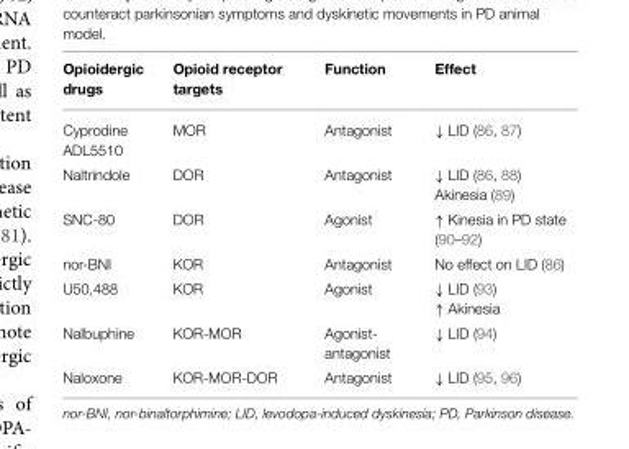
<table><thead><tr><td>Opioidergic drugs</td><td>Opioid receptor targets</td><td>Function</td><td>Effect</td></tr></thead><tbody><tr><td>Cyprodine ADL5510</td><td>MOR</td><td>Antagonist</td><td>↓ LID (86, 87)</td></tr><tr><td>Naltrindole</td><td>DOR</td><td>Antagonist</td><td>↓ LID (86, 88) Akinesia (89)</td></tr><tr><td>SNC-80</td><td>DOR</td><td>Agonist</td><td>↑ Kinesia in PD state (90–92)</td></tr><tr><td>nor-BNI</td><td>KOR</td><td>Antagonist</td><td>No effect on LID (86)</td></tr><tr><td>U50,488</td><td>KOR</td><td>Agonist</td><td>↓ LID (93) ↑ Akinesia</td></tr><tr><td>Nalbuphine</td><td>KOR-MOR</td><td>Agonist- antagonist</td><td>↓ LID (94)</td></tr><tr><td>Naloxone</td><td>KOR-MOR-DOR</td><td>Antagonist</td><td>↓ LID (95, 96)</td></tr></tbody></table>